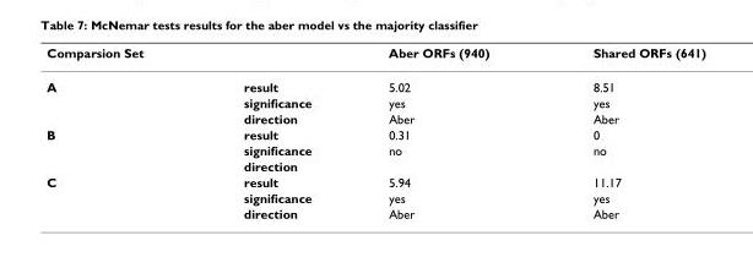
<table><thead><tr><td>Comparsion Set</td><td></td><td>Aber ORFs (940)</td><td>Shared ORFs (641)</td></tr></thead><tbody><tr><td rowspan="3">A</td><td>result</td><td>5.02</td><td>8.51</td></tr><tr><td>significance</td><td>yes</td><td>yes</td></tr><tr><td>direction</td><td>Aber</td><td>Aber</td></tr><tr><td rowspan="3">B</td><td>result</td><td>0.31</td><td>0</td></tr><tr><td>significance</td><td>no</td><td>no</td></tr><tr><td>direction</td><td></td><td></td></tr><tr><td rowspan="3">C</td><td>result</td><td>5.94</td><td>11.17</td></tr><tr><td>significance</td><td>yes</td><td>yes</td></tr><tr><td>direction</td><td>Aber</td><td>Aber</td></tr></tbody></table>